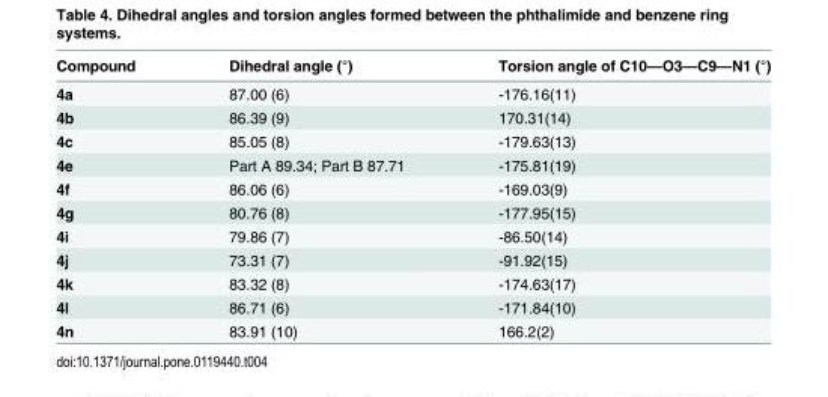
<table><thead><tr><td>Compound</td><td>Dihedral angle (°)</td><td>Torsion angle of C10—O3—C9—N1 (°)</td></tr></thead><tbody><tr><td>4a</td><td>87.00 (6)</td><td>-176.16(11)</td></tr><tr><td>4b</td><td>86.39 (9)</td><td>170.31(14)</td></tr><tr><td>4c</td><td>85.05 (8)</td><td>-179.63(13)</td></tr><tr><td>4e</td><td>Part A 89.34; Part B 87.71</td><td>-175.81(19)</td></tr><tr><td>4f</td><td>86.06 (6)</td><td>-169.03(9)</td></tr><tr><td>4g</td><td>80.76 (8)</td><td>-177.95(15)</td></tr><tr><td>4i</td><td>79.86 (7)</td><td>-86.50(14)</td></tr><tr><td>4j</td><td>73.31 (7)</td><td>-91.92(15)</td></tr><tr><td>4k</td><td>83.32 (8)</td><td>-174.63(17)</td></tr><tr><td>4l</td><td>86.71 (6)</td><td>-171.84(10)</td></tr><tr><td>4n</td><td>83.91 (10)</td><td>166.2(2)</td></tr></tbody></table>